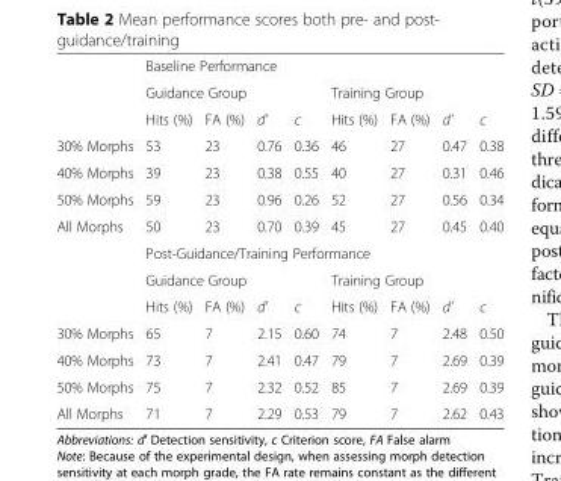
<table><thead><tr><td rowspan="3"></td><td colspan="8">Baseline Performance</td></tr><tr><td colspan="4">Guidance Group</td><td colspan="4">Training Group</td></tr><tr><td>Hits (%)</td><td>FA (%)</td><td>d&#x27;</td><td>c</td><td>Hits (%)</td><td>FA (%)</td><td>d&#x27;</td><td>c</td></tr></thead><tbody><tr><td>30% Morphs</td><td>53</td><td>23</td><td>0.76</td><td>0.36</td><td>46</td><td>27</td><td>0.47</td><td>0.38</td></tr><tr><td>40% Morphs</td><td>39</td><td>23</td><td>0.38</td><td>0.55</td><td>40</td><td>27</td><td>0.31</td><td>0.46</td></tr><tr><td>50% Morphs</td><td>59</td><td>23</td><td>0.96</td><td>0.26</td><td>52</td><td>27</td><td>0.56</td><td>0.34</td></tr><tr><td rowspan="4">All Morphs</td><td>50</td><td>23</td><td>0.70</td><td>0.39</td><td>45</td><td>27</td><td>0.45</td><td>0.40</td></tr><tr><td colspan="8">Post-Guidance/Training Performance</td></tr><tr><td colspan="4">Guidance Group</td><td colspan="4">Training Group</td></tr><tr><td>Hits (%)</td><td>FA (%)</td><td>d&#x27;</td><td>c</td><td>Hits (%)</td><td>FA (%)</td><td>d&#x27;</td><td>c</td></tr><tr><td>30% Morphs</td><td>65</td><td>7</td><td>2.15</td><td>0.60</td><td>74</td><td>7</td><td>2.48</td><td>0.50</td></tr><tr><td>40% Morphs</td><td>73</td><td>7</td><td>2.41</td><td>0.47</td><td>79</td><td>7</td><td>2.69</td><td>0.39</td></tr><tr><td>50% Morphs</td><td>75</td><td>7</td><td>2.32</td><td>0.52</td><td>85</td><td>7</td><td>2.69</td><td>0.39</td></tr><tr><td>All Morphs</td><td>71</td><td>7</td><td>2.29</td><td>0.53</td><td>79</td><td>7</td><td>2.62</td><td>0.43</td></tr></tbody></table>